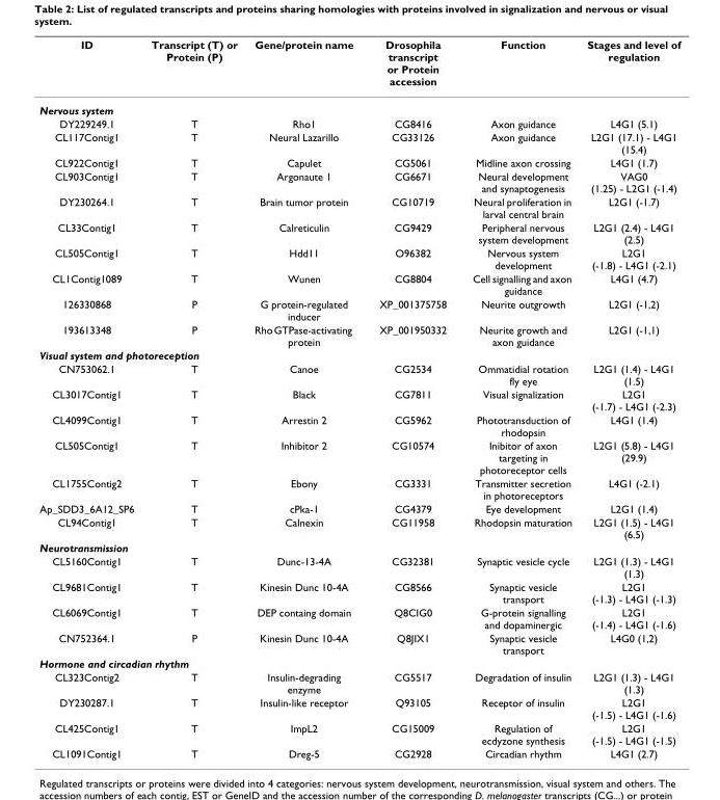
<table><thead><tr><td>ID</td><td>Transcript (T) or Protein (P)</td><td>Gene/protein name</td><td>Drosophila transcript or Protein accession</td><td>Function</td><td>Stages and level of regulation</td></tr></thead><tbody><tr><td colspan="6">Nervous system</td></tr><tr><td>DY229249.1</td><td>T</td><td>Rho1</td><td>CG8416</td><td>Axon guidance</td><td>L4G1 (5.1)</td></tr><tr><td>CL117Contig1</td><td>T</td><td>Neural Lazarillo</td><td>CG33126</td><td>Axon guidance</td><td>L2G1 (17.1) - L4G1 (15.4)</td></tr><tr><td>CL922Contig1</td><td>T</td><td>Capulet</td><td>CG5061</td><td>Midline axon crossing</td><td>L4G1 (1.7)</td></tr><tr><td>CL903Contig1</td><td>T</td><td>Argonaute 1</td><td>CG6671</td><td>Neural development and synaptogenesis</td><td>VAG0 (1.25) - L2G1 (-1.4)</td></tr><tr><td>DY230264.1</td><td>T</td><td>Brain tumor protein</td><td>CG10719</td><td>Neural proliferation in larval central brain</td><td>L2G1 (-1.7)</td></tr><tr><td>CL33Contig1</td><td>T</td><td>Calreticulin</td><td>CG9429</td><td>Peripheral nervous system development</td><td>L2G1 (2.4) - L4G1 (2.5)</td></tr><tr><td>CL505Contig1</td><td>T</td><td>Hdd11</td><td>O96382</td><td>Nervous system development</td><td>L2G1 (-1.8) - L4G1 (-2.1)</td></tr><tr><td>CL1Contig1089</td><td>T</td><td>Wunen</td><td>CG8804</td><td>Cell signalling and axon guidance</td><td>L4G1 (4.7)</td></tr><tr><td>126330868</td><td>P</td><td>G protein-regulated inducer</td><td>XP_001375758</td><td>Neurite outgrowth</td><td>L2G1 (-1,2)</td></tr><tr><td>193613348</td><td>P</td><td>Rho GTPase-activating protein</td><td>XP_001950332</td><td>Neurite growth and axon guidance</td><td>L2G1 (-1,1)</td></tr><tr><td colspan="6">Visual system and photoreception</td></tr><tr><td>CN753062.1</td><td>T</td><td>Canoe</td><td>CG2534</td><td>Ommatidial rotation fly eye</td><td>L2G1 (1.4) - L4G1 (1.5)</td></tr><tr><td>CL3017Contig1</td><td>T</td><td>Black</td><td>CG7811</td><td>Visual signalization</td><td>L2G1 (-1.7) - L4G1 (-2.3)</td></tr><tr><td>CL4099Contig1</td><td>T</td><td>Arrestin 2</td><td>CG5962</td><td>Phototransduction of rhodopsin</td><td>L4G1 (1.4)</td></tr><tr><td>CL505Contig1</td><td>T</td><td>Inhibitor 2</td><td>CG10574</td><td>Inibitor of axon targeting in photoreceptor cells</td><td>L2G1 (5.8) - L4G1 (29.9)</td></tr><tr><td>CL1755Contig2</td><td>T</td><td>Ebony</td><td>CG3331</td><td>Transmitter secretion in photoreceptors</td><td>L4G1 (-2.1)</td></tr><tr><td>Ap_SDD3_6A12_SP6</td><td>T</td><td>cPka-1</td><td>CG4379</td><td>Eye development</td><td>L2G1 (1.4)</td></tr><tr><td>CL94Contig1</td><td>T</td><td>Calnexin</td><td>CG11958</td><td>Rhodopsin maturation</td><td>L2G1 (1.5) - L4G1 (6.5)</td></tr><tr><td colspan="6">Neurotransmission</td></tr><tr><td>CL5160Contig1</td><td>T</td><td>Dunc-13-4A</td><td>CG32381</td><td>Synaptic vesicle cycle</td><td>L2G1 (1.3) - L4G1 (1.3)</td></tr><tr><td>CL9681Contig1</td><td>T</td><td>Kinesin Dunc 10-4A</td><td>CG8566</td><td>Synaptic vesicle transport</td><td>L2G1 (-1.3) - L4G1 (-1.3)</td></tr><tr><td>CL6069Contig1</td><td>T</td><td>DEP containg domain</td><td>Q8CIG0</td><td>G-protein signalling and dopaminergic</td><td>L2G1 (-1.4) - L4G1 (-1.6)</td></tr><tr><td>CN752364.1</td><td>P</td><td>Kinesin Dunc 10-4A</td><td>Q8JIX1</td><td>Synaptic vesicle transport</td><td>L4G0 (1,2)</td></tr><tr><td colspan="6">Hormone and circadian rhythm</td></tr><tr><td>CL323Contig2</td><td>T</td><td>Insulin-degrading enzyme</td><td>CG5517</td><td>Degradation of insulin</td><td>L2G1 (1.3) - L4G1 (1.3)</td></tr><tr><td>DY230287.1</td><td>T</td><td>Insulin-like receptor</td><td>Q93105</td><td>Receptor of insulin</td><td>L2G1 (-1.5) - L4G1 (-1.6)</td></tr><tr><td>CL425Contig1</td><td>T</td><td>ImpL2</td><td>CG15009</td><td>Regulation of ecdyzone synthesis</td><td>L2G1 (-1.5) - L4G1 (-1.5)</td></tr><tr><td>CL1091Contig1</td><td>T</td><td>Dreg-5</td><td>CG2928</td><td>Circadian rhythm</td><td>L4G1 (2.7)</td></tr></tbody></table>